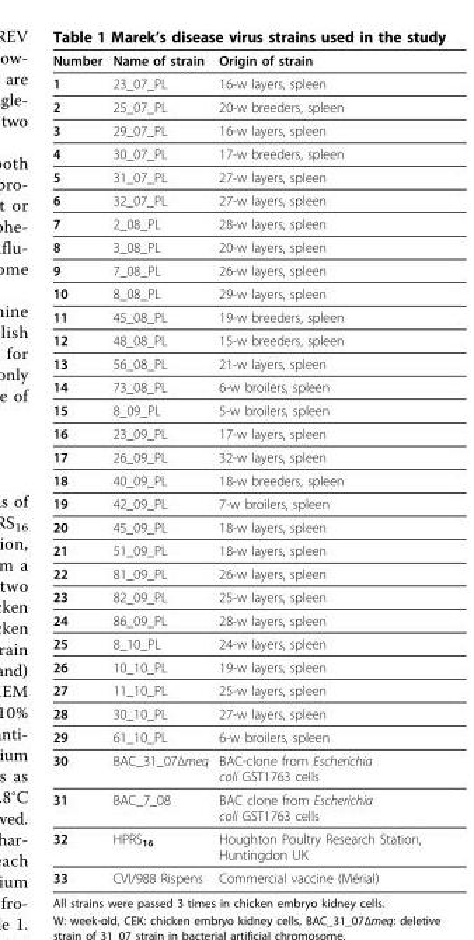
<table><thead><tr><td>Number</td><td>Name of strain</td><td>Origin of strain</td></tr></thead><tbody><tr><td>1</td><td>23_07_PL</td><td>16-w layers, spleen</td></tr><tr><td>2</td><td>25_07_PL</td><td>20-w breeders, spleen</td></tr><tr><td>3</td><td>29_07_PL</td><td>16-w layers, spleen</td></tr><tr><td>4</td><td>30_07_PL</td><td>17-w breeders, spleen</td></tr><tr><td>5</td><td>31_07_PL</td><td>27-w layers, spleen</td></tr><tr><td>6</td><td>32_07_PL</td><td>27-w layers, spleen</td></tr><tr><td>7</td><td>2_08_PL</td><td>28-w layers, spleen</td></tr><tr><td>8</td><td>3_08_PL</td><td>20-w layers, spleen</td></tr><tr><td>9</td><td>7_08_PL</td><td>26-w layers, spleen</td></tr><tr><td>10</td><td>8_08_PL</td><td>29-w layers, spleen</td></tr><tr><td>11</td><td>45_08_PL</td><td>19-w breeders, spleen</td></tr><tr><td>12</td><td>48_08_PL</td><td>15-w breeders, spleen</td></tr><tr><td>13</td><td>56_08_PL</td><td>21-w layers, spleen</td></tr><tr><td>14</td><td>73_08_PL</td><td>6-w broilers, spleen</td></tr><tr><td>15</td><td>8_09_PL</td><td>5-w broilers, spleen</td></tr><tr><td>16</td><td>23_09_PL</td><td>17-w layers, spleen</td></tr><tr><td>17</td><td>26_09_PL</td><td>32-w layers, spleen</td></tr><tr><td>18</td><td>40_09_PL</td><td>18-w breeders, spleen</td></tr><tr><td>19</td><td>42_09_PL</td><td>7-w broilers, spleen</td></tr><tr><td>20</td><td>45_09_PL</td><td>18-w layers, spleen</td></tr><tr><td>21</td><td>51_09_PL</td><td>18-w layers, spleen</td></tr><tr><td>22</td><td>81_09_PL</td><td>26-w layers, spleen</td></tr><tr><td>23</td><td>82_09_PL</td><td>25-w layers, spleen</td></tr><tr><td>24</td><td>86_09_PL</td><td>28-w layers, spleen</td></tr><tr><td>25</td><td>8_10_PL</td><td>24-w layers, spleen</td></tr><tr><td>26</td><td>10_10_PL</td><td>19-w layers, spleen</td></tr><tr><td>27</td><td>11_10_PL</td><td>25-w layers, spleen</td></tr><tr><td>28</td><td>30_10_PL</td><td>27-w layers, spleen</td></tr><tr><td>29</td><td>61_10_PL</td><td>6-w broilers, spleen</td></tr><tr><td>30</td><td>BAC_31_07Δmeq</td><td>BAC-clone from Escherichia coli GST1763 cells</td></tr><tr><td>31</td><td>BAC_7_08</td><td>BAC clone from Escherichia coli GST1763 cells</td></tr><tr><td>32</td><td>HPRS<sub>16</sub></td><td>Houghton Poultry Research Station, Huntingdon UK</td></tr><tr><td>33</td><td>CVI/988 Rispens</td><td>Commercial vaccine (Mérial)</td></tr></tbody></table>